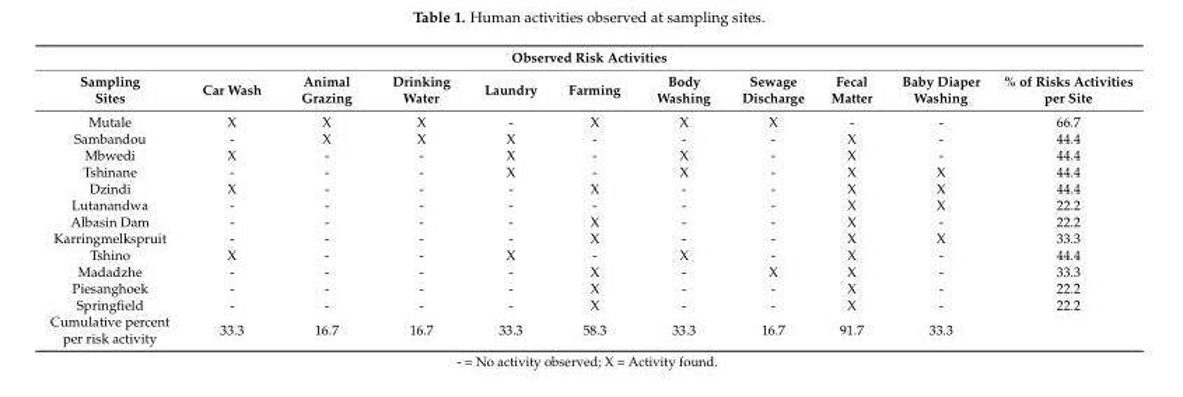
<table><thead><tr><td colspan="11">Observed Risk Activities</td></tr><tr><td>Sampling Sites</td><td>Car Wash</td><td>Animal Grazing</td><td>Drinking Water</td><td>Laundry</td><td>Farming</td><td>Body Washing</td><td>Sewage Discharge</td><td>Fecal Matter</td><td>Baby Diaper Washing</td><td>% of Risks Activities per Site</td></tr></thead><tbody><tr><td>Mutale</td><td>X</td><td>X</td><td>X</td><td>-</td><td>X</td><td>X</td><td>X</td><td>-</td><td>-</td><td>66.7</td></tr><tr><td>Sambandou</td><td>-</td><td>X</td><td>X</td><td>X</td><td>-</td><td>-</td><td>-</td><td>X</td><td>-</td><td>44.4</td></tr><tr><td>Mbwedi</td><td>X</td><td>-</td><td>-</td><td>X</td><td>-</td><td>X</td><td>-</td><td>X</td><td>-</td><td>44.4</td></tr><tr><td>Tshinane</td><td>-</td><td>-</td><td>-</td><td>X</td><td>-</td><td>X</td><td>-</td><td>X</td><td>X</td><td>44.4</td></tr><tr><td>Dzindi</td><td>X</td><td>-</td><td>-</td><td>-</td><td>X</td><td>-</td><td>-</td><td>X</td><td>X</td><td>44.4</td></tr><tr><td>Lutanandwa</td><td>-</td><td>-</td><td>-</td><td>-</td><td>-</td><td>-</td><td>-</td><td>X</td><td>X</td><td>22.2</td></tr><tr><td>Albasin Dam</td><td>-</td><td>-</td><td>-</td><td>-</td><td>X</td><td>-</td><td>-</td><td>X</td><td>-</td><td>22.2</td></tr><tr><td>Karringmelkspruit</td><td>-</td><td>-</td><td>-</td><td>-</td><td>X</td><td>-</td><td>-</td><td>X</td><td>X</td><td>33.3</td></tr><tr><td>Tshino</td><td>X</td><td>-</td><td>-</td><td>X</td><td>-</td><td>X</td><td>-</td><td>X</td><td>-</td><td>44.4</td></tr><tr><td>Madadzhe</td><td>-</td><td>-</td><td>-</td><td>-</td><td>X</td><td>-</td><td>X</td><td>X</td><td>-</td><td>33.3</td></tr><tr><td>Piesanghoek</td><td>-</td><td>-</td><td>-</td><td>-</td><td>X</td><td>-</td><td>-</td><td>X</td><td>-</td><td>22.2</td></tr><tr><td>Springfield</td><td>-</td><td>-</td><td>-</td><td>-</td><td>X</td><td>-</td><td>-</td><td>X</td><td>-</td><td>22.2</td></tr><tr><td>Cumulative percent per risk activity</td><td>33.3</td><td>16.7</td><td>16.7</td><td>33.3</td><td>58.3</td><td>33.3</td><td>16.7</td><td>91.7</td><td>33.3</td><td></td></tr></tbody></table>